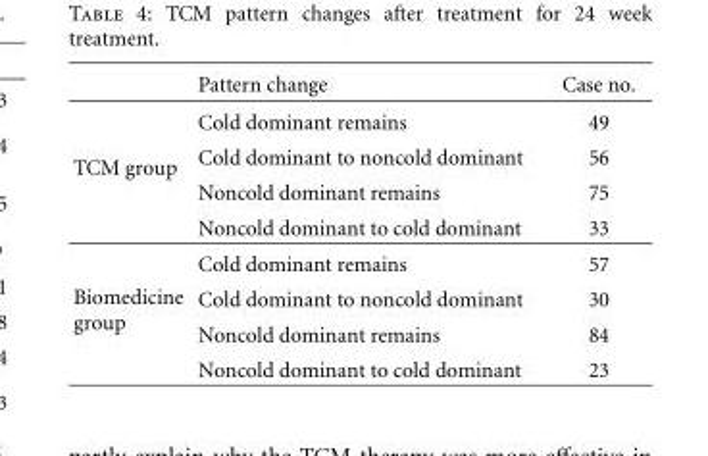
<table><thead><tr><td></td><td>Pattern change</td><td>Case no.</td></tr></thead><tbody><tr><td rowspan="4">TCM group</td><td>Cold dominant remains</td><td>49</td></tr><tr><td>Cold dominant to noncold dominant</td><td>56</td></tr><tr><td>Noncold dominant remains</td><td>75</td></tr><tr><td>Noncold dominant to cold dominant</td><td>33</td></tr><tr><td rowspan="4">Biomedicine group</td><td>Cold dominant remains</td><td>57</td></tr><tr><td>Cold dominant to noncold dominant</td><td>30</td></tr><tr><td>Noncold dominant remains</td><td>84</td></tr><tr><td>Noncold dominant to cold dominant</td><td>23</td></tr></tbody></table>